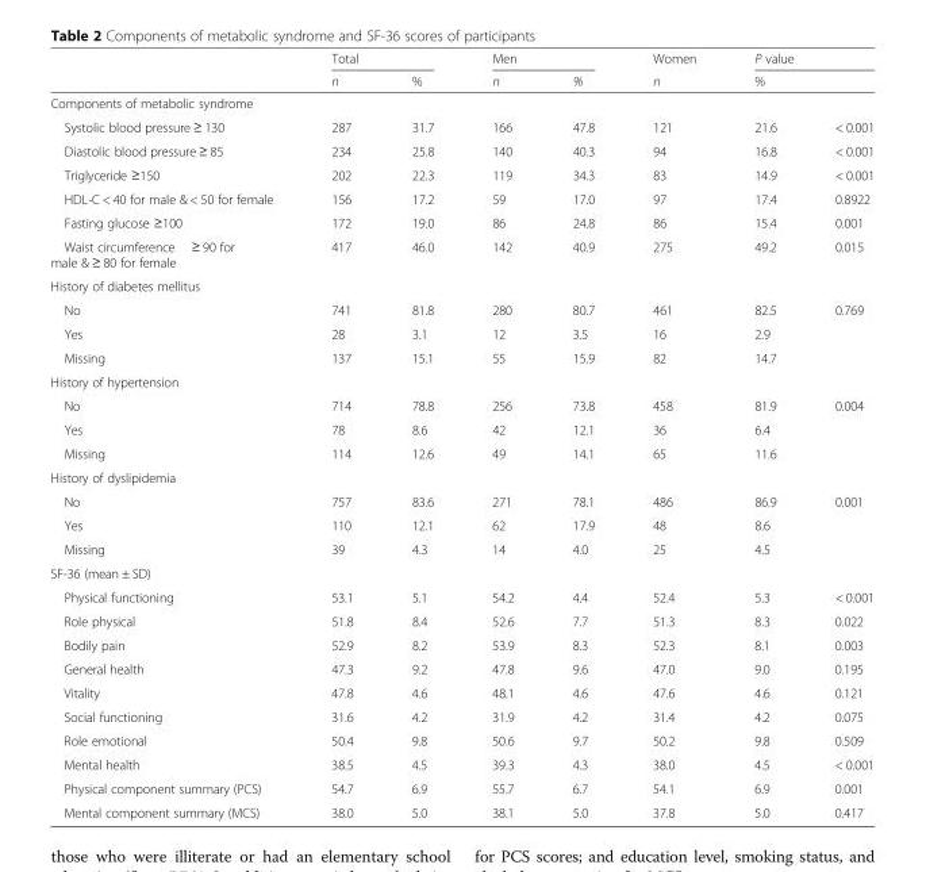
<table><thead><tr><td rowspan="2"></td><td colspan="2">Total</td><td colspan="2">Men</td><td rowspan="2">Women n</td><td colspan="2">P value</td></tr><tr><td>n</td><td>%</td><td>n</td><td>%</td><td>%</td><td></td></tr></thead><tbody><tr><td colspan="8">Components of metabolic syndrome</td></tr><tr><td>Systolic blood pressure ≥ 130</td><td>287</td><td>31.7</td><td>166</td><td>47.8</td><td>121</td><td>21.6</td><td>&lt; 0.001</td></tr><tr><td>Diastolic blood pressure ≥ 85</td><td>234</td><td>25.8</td><td>140</td><td>40.3</td><td>94</td><td>16.8</td><td>&lt; 0.001</td></tr><tr><td>Triglyceride ≥150</td><td>202</td><td>22.3</td><td>119</td><td>34.3</td><td>83</td><td>14.9</td><td>&lt; 0.001</td></tr><tr><td>HDL-C &lt; 40 for male &amp; &lt; 50 for female</td><td>156</td><td>17.2</td><td>59</td><td>17.0</td><td>97</td><td>17.4</td><td>0.8922</td></tr><tr><td>Fasting glucose ≥100</td><td>172</td><td>19.0</td><td>86</td><td>24.8</td><td>86</td><td>15.4</td><td>0.001</td></tr><tr><td>Waist circumference ≥ 90 for male &amp; ≥ 80 for female</td><td>417</td><td>46.0</td><td>142</td><td>40.9</td><td>275</td><td>49.2</td><td>0.015</td></tr><tr><td colspan="8">History of diabetes mellitus</td></tr><tr><td>No</td><td>741</td><td>81.8</td><td>280</td><td>80.7</td><td>461</td><td>82.5</td><td>0.769</td></tr><tr><td>Yes</td><td>28</td><td>3.1</td><td>12</td><td>3.5</td><td>16</td><td>2.9</td><td></td></tr><tr><td>Missing</td><td>137</td><td>15.1</td><td>55</td><td>15.9</td><td>82</td><td>14.7</td><td></td></tr><tr><td colspan="8">History of hypertension</td></tr><tr><td>No</td><td>714</td><td>78.8</td><td>256</td><td>73.8</td><td>458</td><td>81.9</td><td>0.004</td></tr><tr><td>Yes</td><td>78</td><td>8.6</td><td>42</td><td>12.1</td><td>36</td><td>6.4</td><td></td></tr><tr><td>Missing</td><td>114</td><td>12.6</td><td>49</td><td>14.1</td><td>65</td><td>11.6</td><td></td></tr><tr><td colspan="8">History of dyslipidemia</td></tr><tr><td>No</td><td>757</td><td>83.6</td><td>271</td><td>78.1</td><td>486</td><td>86.9</td><td>0.001</td></tr><tr><td>Yes</td><td>110</td><td>12.1</td><td>62</td><td>17.9</td><td>48</td><td>8.6</td><td></td></tr><tr><td>Missing</td><td>39</td><td>4.3</td><td>14</td><td>4.0</td><td>25</td><td>4.5</td><td></td></tr><tr><td colspan="8">SF-36 (mean ± SD)</td></tr><tr><td>Physical functioning</td><td>53.1</td><td>5.1</td><td>54.2</td><td>4.4</td><td>52.4</td><td>5.3</td><td>&lt; 0.001</td></tr><tr><td>Role physical</td><td>51.8</td><td>8.4</td><td>52.6</td><td>7.7</td><td>51.3</td><td>8.3</td><td>0.022</td></tr><tr><td>Bodily pain</td><td>52.9</td><td>8.2</td><td>53.9</td><td>8.3</td><td>52.3</td><td>8.1</td><td>0.003</td></tr><tr><td>General health</td><td>47.3</td><td>9.2</td><td>47.8</td><td>9.6</td><td>47.0</td><td>9.0</td><td>0.195</td></tr><tr><td>Vitality</td><td>47.8</td><td>4.6</td><td>48.1</td><td>4.6</td><td>47.6</td><td>4.6</td><td>0.121</td></tr><tr><td>Social functioning</td><td>31.6</td><td>4.2</td><td>31.9</td><td>4.2</td><td>31.4</td><td>4.2</td><td>0.075</td></tr><tr><td>Role emotional</td><td>50.4</td><td>9.8</td><td>50.6</td><td>9.7</td><td>50.2</td><td>9.8</td><td>0.509</td></tr><tr><td>Mental health</td><td>38.5</td><td>4.5</td><td>39.3</td><td>4.3</td><td>38.0</td><td>4.5</td><td>&lt; 0.001</td></tr><tr><td>Physical component summary (PCS)</td><td>54.7</td><td>6.9</td><td>55.7</td><td>6.7</td><td>54.1</td><td>6.9</td><td>0.001</td></tr><tr><td>Mental component summary (MCS)</td><td>38.0</td><td>5.0</td><td>38.1</td><td>5.0</td><td>37.8</td><td>5.0</td><td>0.417</td></tr></tbody></table>